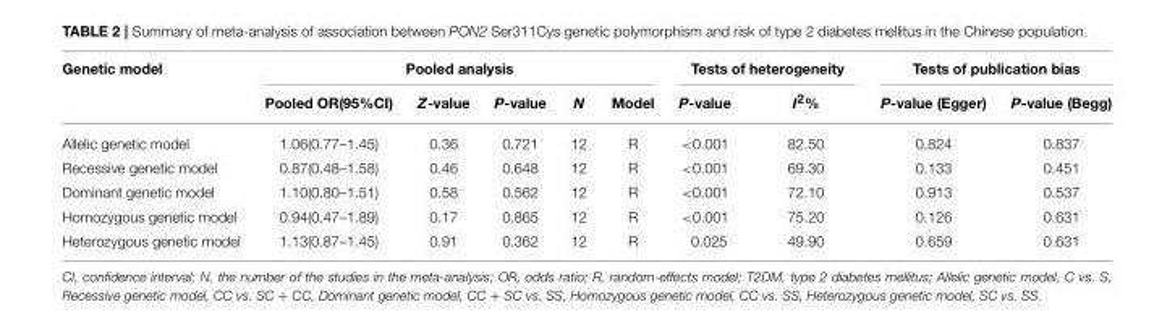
<table><thead><tr><td rowspan="2">Genetic model</td><td colspan="5">Pooled analysis</td><td colspan="2">Tests of heterogeneity</td><td colspan="2">Tests of publication bias</td></tr><tr><td>Pooled OR(95%CI)</td><td>Z-value</td><td>P-value</td><td>N</td><td>Model</td><td>P-value</td><td>I<sup>2</sup>%</td><td>P-value (Egger)</td><td>P-value (Begg)</td></tr></thead><tbody><tr><td>Allelic genetic model</td><td>1.06(0.77–1.45)</td><td>0.36</td><td>0.721</td><td>12</td><td>R</td><td>&lt;0.001</td><td>82.50</td><td>0.824</td><td>0.837</td></tr><tr><td>Recessive genetic model</td><td>0.87(0.48–1.58)</td><td>0.46</td><td>0.648</td><td>12</td><td>R</td><td>&lt;0.001</td><td>69.30</td><td>0.133</td><td>0.451</td></tr><tr><td>Dominant genetic model</td><td>1.10(0.80–1.51)</td><td>0.58</td><td>0.562</td><td>12</td><td>R</td><td>&lt;0.001</td><td>72.10</td><td>0.913</td><td>0.537</td></tr><tr><td>Homozygous genetic model</td><td>0.94(0.47–1.89)</td><td>0.17</td><td>0.865</td><td>12</td><td>R</td><td>&lt;0.001</td><td>75.20</td><td>0.126</td><td>0.631</td></tr><tr><td>Heterozygous genetic model</td><td>1.13(0.87–1.45)</td><td>0.91</td><td>0.362</td><td>12</td><td>R</td><td>0.025</td><td>49.90</td><td>0.659</td><td>0.631</td></tr></tbody></table>